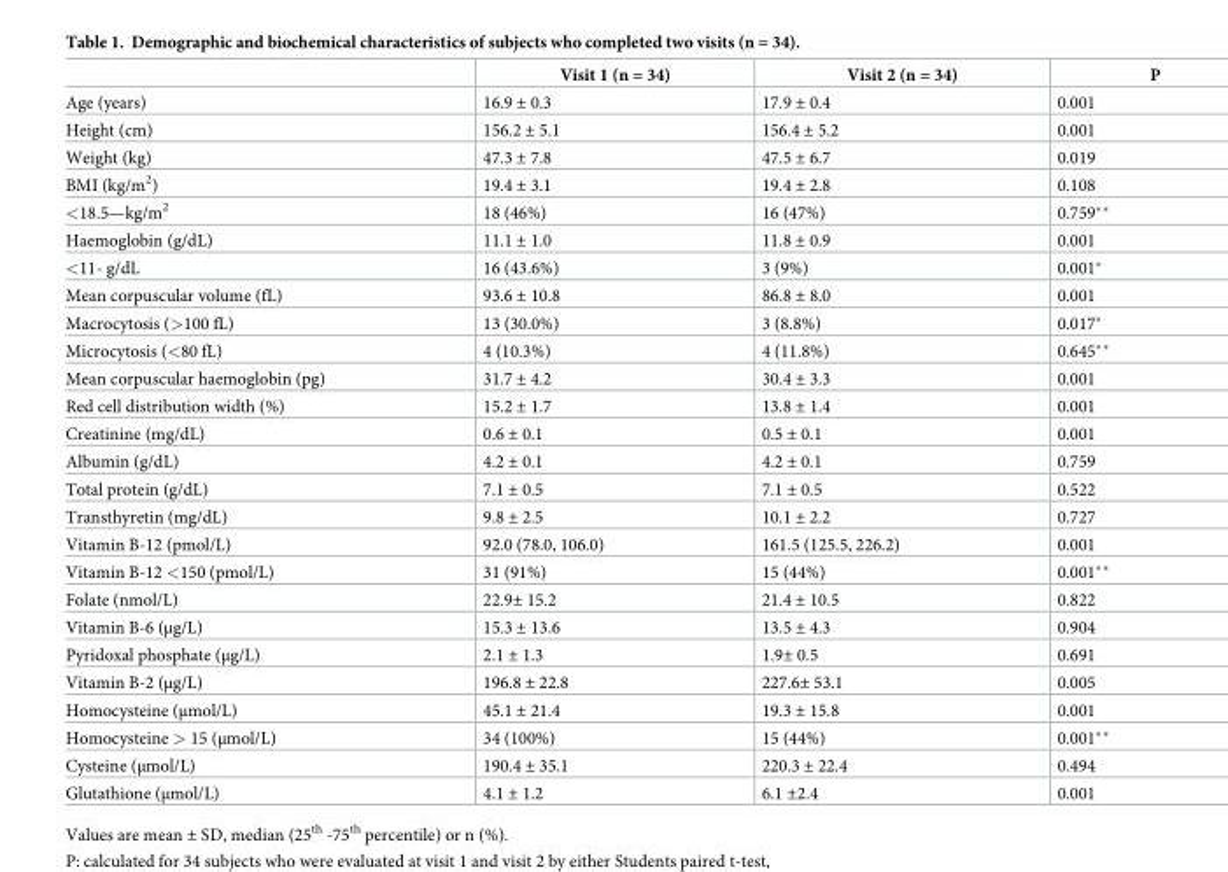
<table><thead><tr><td></td><td>Visit 1 (n = 34)</td><td>Visit 2 (n = 34)</td><td>P</td></tr></thead><tbody><tr><td>Age (years)</td><td>16.9 ± 0.3</td><td>17.9 ± 0.4</td><td>0.001</td></tr><tr><td>Height (cm)</td><td>156.2 ± 5.1</td><td>156.4 ± 5.2</td><td>0.001</td></tr><tr><td>Weight (kg)</td><td>47.3 ± 7.8</td><td>47.5 ± 6.7</td><td>0.019</td></tr><tr><td>BMI (kg/m<sup>2</sup>)</td><td>19.4 ± 3.1</td><td>19.4 ± 2.8</td><td>0.108</td></tr><tr><td>&lt;18.5—kg/m<sup>2</sup></td><td>18 (46%)</td><td>16 (47%)</td><td>0.759**</td></tr><tr><td>Haemoglobin (g/dL)</td><td>11.1 ± 1.0</td><td>11.8 ± 0.9</td><td>0.001</td></tr><tr><td>&lt;11- g/dL</td><td>16 (43.6%)</td><td>3 (9%)</td><td>0.001*</td></tr><tr><td>Mean corpuscular volume (fL)</td><td>93.6 ± 10.8</td><td>86.8 ± 8.0</td><td>0.001</td></tr><tr><td>Macrocytosis (&gt;100 fL)</td><td>13 (30.0%)</td><td>3 (8.8%)</td><td>0.017*</td></tr><tr><td>Microcytosis (&lt;80 fL)</td><td>4 (10.3%)</td><td>4 (11.8%)</td><td>0.645**</td></tr><tr><td>Mean corpuscular haemoglobin (pg)</td><td>31.7 ± 4.2</td><td>30.4 ± 3.3</td><td>0.001</td></tr><tr><td>Red cell distribution width (%)</td><td>15.2 ± 1.7</td><td>13.8 ± 1.4</td><td>0.001</td></tr><tr><td>Creatinine (mg/dL)</td><td>0.6 ± 0.1</td><td>0.5 ± 0.1</td><td>0.001</td></tr><tr><td>Albumin (g/dL)</td><td>4.2 ± 0.1</td><td>4.2 ± 0.1</td><td>0.759</td></tr><tr><td>Total protein (g/dL)</td><td>7.1 ± 0.5</td><td>7.1 ± 0.5</td><td>0.522</td></tr><tr><td>Transthyretin (mg/dL)</td><td>9.8 ± 2.5</td><td>10.1 ± 2.2</td><td>0.727</td></tr><tr><td>Vitamin B-12 (pmol/L)</td><td>92.0 (78.0, 106.0)</td><td>161.5 (125.5, 226.2)</td><td>0.001</td></tr><tr><td>Vitamin B-12 &lt;150 (pmol/L)</td><td>31 (91%)</td><td>15 (44%)</td><td>0.001**</td></tr><tr><td>Folate (nmol/L)</td><td>22.9± 15.2</td><td>21.4 ± 10.5</td><td>0.822</td></tr><tr><td>Vitamin B-6 (µg/L)</td><td>15.3 ± 13.6</td><td>13.5 ± 4.3</td><td>0.904</td></tr><tr><td>Pyridoxal phosphate (µg/L)</td><td>2.1 ± 1.3</td><td>1.9± 0.5</td><td>0.691</td></tr><tr><td>Vitamin B-2 (µg/L)</td><td>196.8 ± 22.8</td><td>227.6± 53.1</td><td>0.005</td></tr><tr><td>Homocysteine (µmol/L)</td><td>45.1 ± 21.4</td><td>19.3 ± 15.8</td><td>0.001</td></tr><tr><td>Homocysteine &gt; 15 (µmol/L)</td><td>34 (100%)</td><td>15 (44%)</td><td>0.001**</td></tr><tr><td>Cysteine (µmol/L)</td><td>190.4 ± 35.1</td><td>220.3 ± 22.4</td><td>0.494</td></tr><tr><td>Glutathione (µmol/L)</td><td>4.1 ± 1.2</td><td>6.1 ±2.4</td><td>0.001</td></tr></tbody></table>